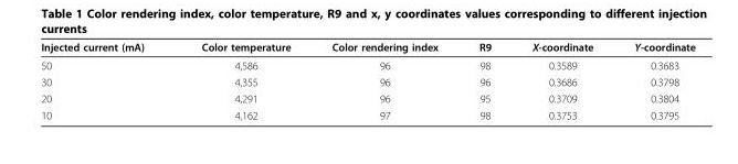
<table><thead><tr><td>Injected current (mA)</td><td>Color temperature</td><td>Color rendering index</td><td>R9</td><td>X-coordinate</td><td>Y-coordinate</td></tr></thead><tbody><tr><td>50</td><td>4,586</td><td>96</td><td>98</td><td>0.3589</td><td>0.3683</td></tr><tr><td>30</td><td>4,355</td><td>96</td><td>96</td><td>0.3686</td><td>0.3798</td></tr><tr><td>20</td><td>4,291</td><td>96</td><td>95</td><td>0.3709</td><td>0.3804</td></tr><tr><td>10</td><td>4,162</td><td>97</td><td>98</td><td>0.3753</td><td>0.3795</td></tr></tbody></table>